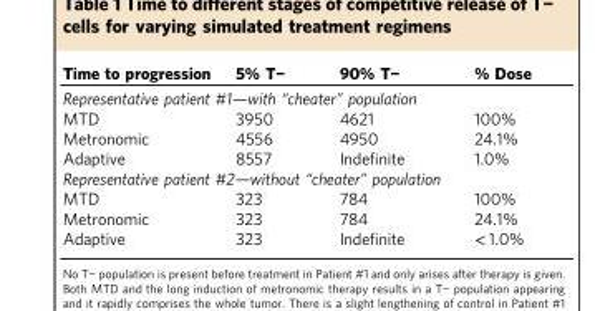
<table><thead><tr><td>Time to progression</td><td>5% T−</td><td>90% T−</td><td>% Dose</td></tr></thead><tbody><tr><td colspan="4">Representative patient #1—with “cheater” population</td></tr><tr><td>MTD</td><td>3950</td><td>4621</td><td>100%</td></tr><tr><td>Metronomic</td><td>4556</td><td>4950</td><td>24.1%</td></tr><tr><td>Adaptive</td><td>8557</td><td>Indefinite</td><td>1.0%</td></tr><tr><td colspan="4">Representative patient #2—without “cheater” population</td></tr><tr><td>MTD</td><td>323</td><td>784</td><td>100%</td></tr><tr><td>Metronomic</td><td>323</td><td>784</td><td>24.1%</td></tr><tr><td>Adaptive</td><td>323</td><td>Indefinite</td><td>&lt; 1.0%</td></tr></tbody></table>